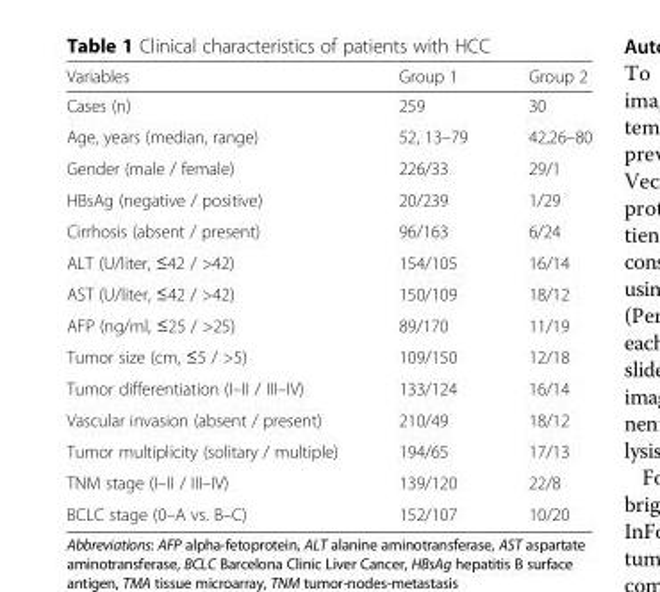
<table><thead><tr><td>Variables</td><td>Group 1</td><td>Group 2</td></tr></thead><tbody><tr><td>Cases (n)</td><td>259</td><td>30</td></tr><tr><td>Age, years (median, range)</td><td>52, 13–79</td><td>42,26–80</td></tr><tr><td>Gender (male / female)</td><td>226/33</td><td>29/1</td></tr><tr><td>HBsAg (negative / positive)</td><td>20/239</td><td>1/29</td></tr><tr><td>Cirrhosis (absent / present)</td><td>96/163</td><td>6/24</td></tr><tr><td>ALT (U/liter, ≤42 / &gt;42)</td><td>154/105</td><td>16/14</td></tr><tr><td>AST (U/liter, ≤42 / &gt;42)</td><td>150/109</td><td>18/12</td></tr><tr><td>AFP (ng/ml, ≤25 / &gt;25)</td><td>89/170</td><td>11/19</td></tr><tr><td>Tumor size (cm, ≤5 / &gt;5)</td><td>109/150</td><td>12/18</td></tr><tr><td>Tumor differentiation (I–II / III–IV)</td><td>133/124</td><td>16/14</td></tr><tr><td>Vascular invasion (absent / present)</td><td>210/49</td><td>18/12</td></tr><tr><td>Tumor multiplicity (solitary / multiple)</td><td>194/65</td><td>17/13</td></tr><tr><td>TNM stage (I–II / III–IV)</td><td>139/120</td><td>22/8</td></tr><tr><td>BCLC stage (0–A vs. B–C)</td><td>152/107</td><td>10/20</td></tr></tbody></table>